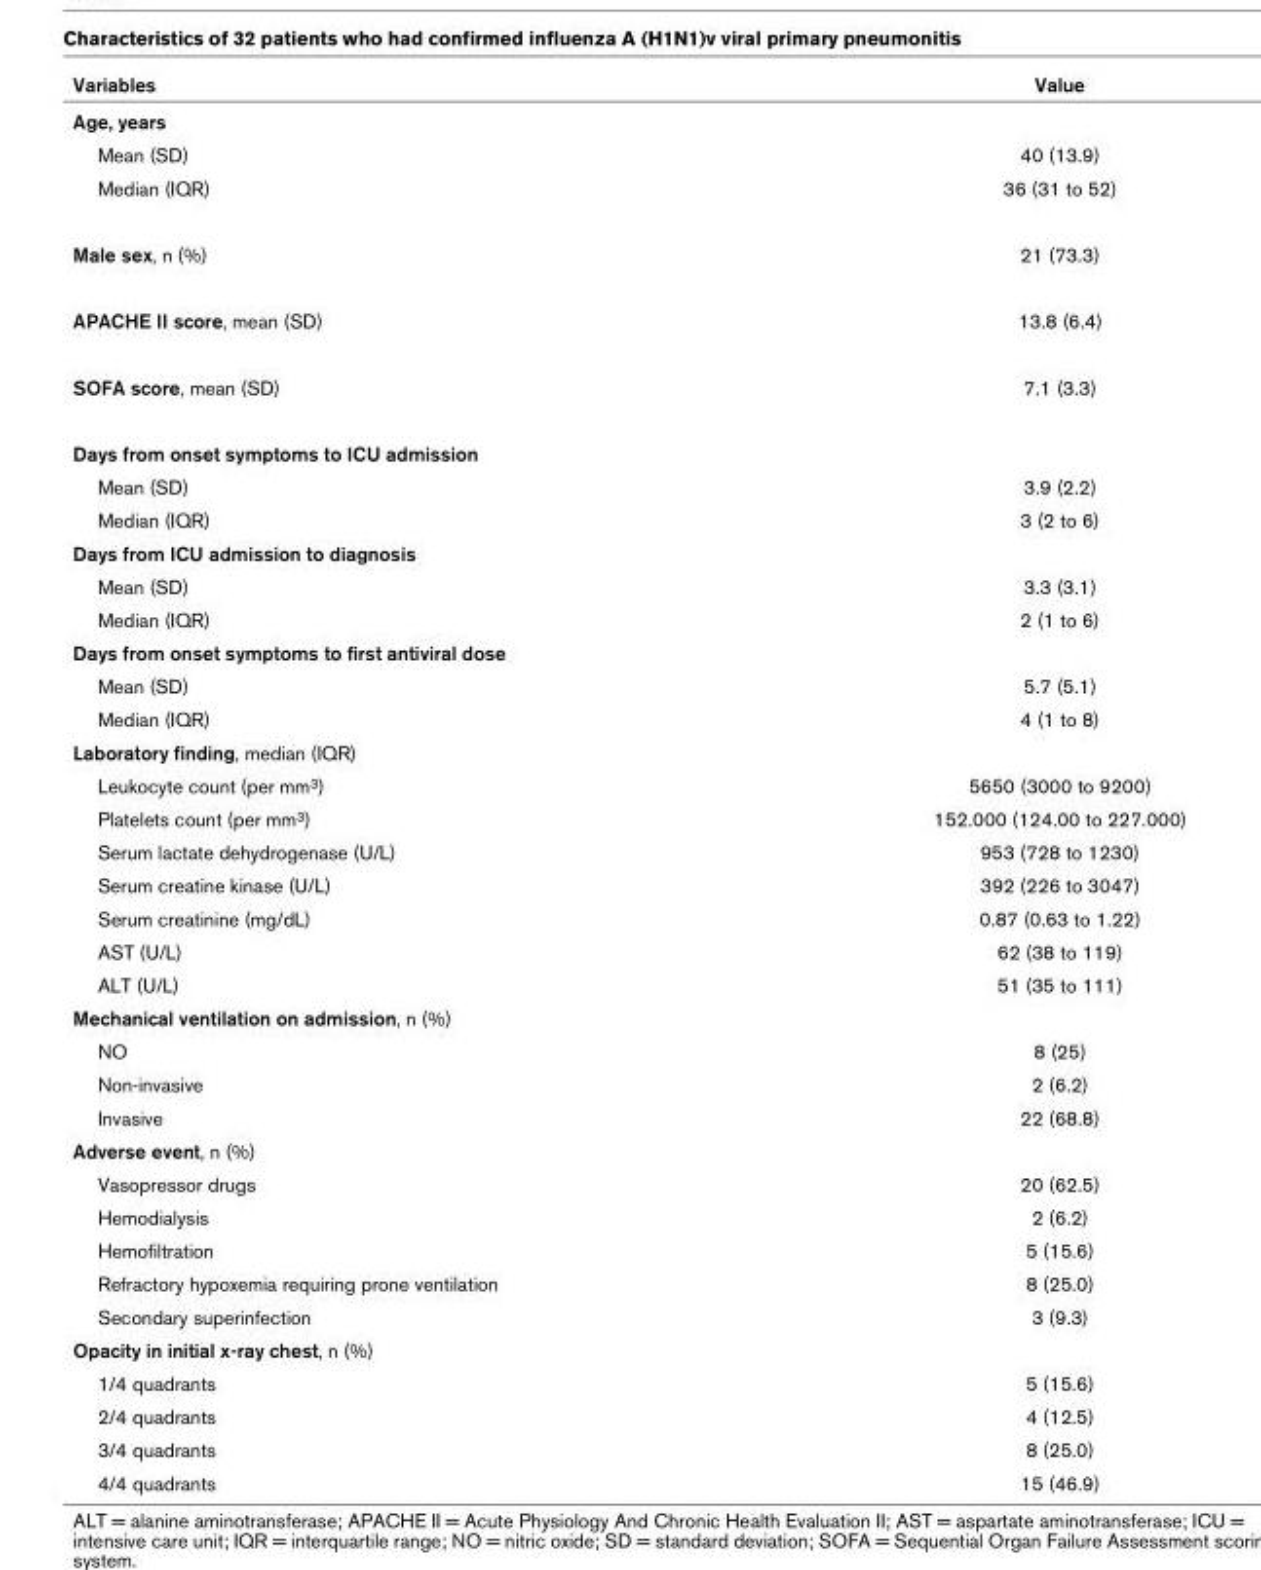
<table><thead><tr><td>Variables</td><td>Value</td></tr></thead><tbody><tr><td colspan="2">Age, years</td></tr><tr><td>Mean (SD)</td><td>40 (13.9)</td></tr><tr><td>Median (IQR)</td><td>36 (31 to 52)</td></tr><tr><td>Male sex, n (%)</td><td>21 (73.3)</td></tr><tr><td>APACHE II score, mean (SD)</td><td>13.8 (6.4)</td></tr><tr><td>SOFA score, mean (SD)</td><td>7.1 (3.3)</td></tr><tr><td colspan="2">Days from onset symptoms to ICU admission</td></tr><tr><td>Mean (SD)</td><td>3.9 (2.2)</td></tr><tr><td>Median (IQR)</td><td>3 (2 to 6)</td></tr><tr><td colspan="2">Days from ICU admission to diagnosis</td></tr><tr><td>Mean (SD)</td><td>3.3 (3.1)</td></tr><tr><td>Median (IQR)</td><td>2 (1 to 6)</td></tr><tr><td colspan="2">Days from onset symptoms to first antiviral dose</td></tr><tr><td>Mean (SD)</td><td>5.7 (5.1)</td></tr><tr><td>Median (IQR)</td><td>4 (1 to 8)</td></tr><tr><td colspan="2">Laboratory finding, median (IQR)</td></tr><tr><td>Leukocyte count (per mm<sup>3</sup>)</td><td>5650 (3000 to 9200)</td></tr><tr><td>Platelets count (per mm<sup>3</sup>)</td><td>152.000 (124.00 to 227.000)</td></tr><tr><td>Serum lactate dehydrogenase (U/L)</td><td>953 (728 to 1230)</td></tr><tr><td>Serum creatine kinase (U/L)</td><td>392 (226 to 3047)</td></tr><tr><td>Serum creatinine (mg/dL)</td><td>0.87 (0.63 to 1.22)</td></tr><tr><td>AST (U/L)</td><td>62 (38 to 119)</td></tr><tr><td>ALT (U/L)</td><td>51 (35 to 111)</td></tr><tr><td colspan="2">Mechanical ventilation on admission, n (%)</td></tr><tr><td>NO</td><td>8 (25)</td></tr><tr><td>Non-invasive</td><td>2 (6.2)</td></tr><tr><td>Invasive</td><td>22 (68.8)</td></tr><tr><td colspan="2">Adverse event, n (%)</td></tr><tr><td>Vasopressor drugs</td><td>20 (62.5)</td></tr><tr><td>Hemodialysis</td><td>2 (6.2)</td></tr><tr><td>Hemofiltration</td><td>5 (15.6)</td></tr><tr><td>Refractory hypoxemia requiring prone ventilation</td><td>8 (25.0)</td></tr><tr><td>Secondary superinfection</td><td>3 (9.3)</td></tr><tr><td colspan="2">Opacity in initial x-ray chest, n (%)</td></tr><tr><td>1/4 quadrants</td><td>5 (15.6)</td></tr><tr><td>2/4 quadrants</td><td>4 (12.5)</td></tr><tr><td>3/4 quadrants</td><td>8 (25.0)</td></tr><tr><td>4/4 quadrants</td><td>15 (46.9)</td></tr></tbody></table>